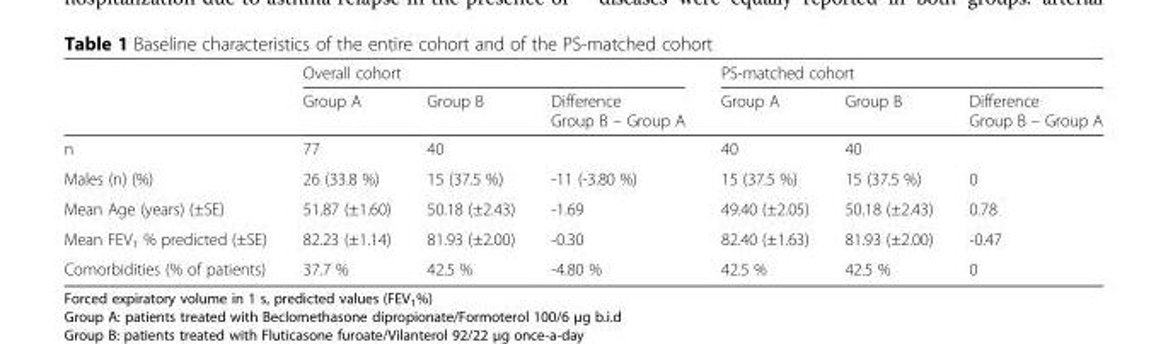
<table><thead><tr><td rowspan="2"></td><td colspan="3">Overall cohort</td><td colspan="3">PS-matched cohort</td></tr><tr><td>Group A</td><td>Group B</td><td>Difference Group B – Group A</td><td>Group A</td><td>Group B</td><td>Difference Group B – Group A</td></tr></thead><tbody><tr><td>n</td><td>77</td><td>40</td><td></td><td>40</td><td>40</td><td></td></tr><tr><td>Males (n) (%)</td><td>26 (33.8 %)</td><td>15 (37.5 %)</td><td>-11 (-3.80 %)</td><td>15 (37.5 %)</td><td>15 (37.5 %)</td><td>0</td></tr><tr><td>Mean Age (years) (±SE)</td><td>51.87 (±1.60)</td><td>50.18 (±2.43)</td><td>-1.69</td><td>49.40 (±2.05)</td><td>50.18 (±2.43)</td><td>0.78</td></tr><tr><td>Mean FEV<sub>1</sub> % predicted (±SE)</td><td>82.23 (±1.14)</td><td>81.93 (±2.00)</td><td>-0.30</td><td>82.40 (±1.63)</td><td>81.93 (±2.00)</td><td>-0.47</td></tr><tr><td>Comorbidities (% of patients)</td><td>37.7 %</td><td>42.5 %</td><td>-4.80 %</td><td>42.5 %</td><td>42.5 %</td><td>0</td></tr></tbody></table>